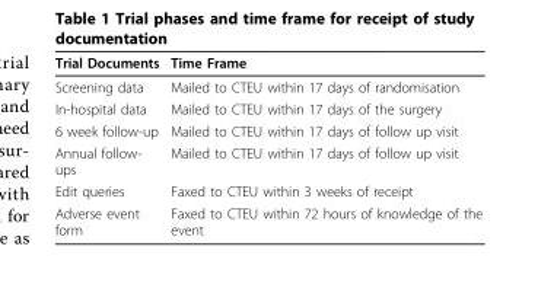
<table><thead><tr><td>Trial Documents</td><td>Time Frame</td></tr></thead><tbody><tr><td>Screening data</td><td>Mailed to CTEU within 17 days of randomisation</td></tr><tr><td>In-hospital data</td><td>Mailed to CTEU within 17 days of the surgery</td></tr><tr><td>6 week follow-up</td><td>Mailed to CTEU within 17 days of follow up visit</td></tr><tr><td>Annual follow- ups</td><td>Mailed to CTEU within 17 days of follow up visit</td></tr><tr><td>Edit queries</td><td>Faxed to CTEU within 3 weeks of receipt</td></tr><tr><td>Adverse event form</td><td>Faxed to CTEU within 72 hours of knowledge of the event</td></tr></tbody></table>